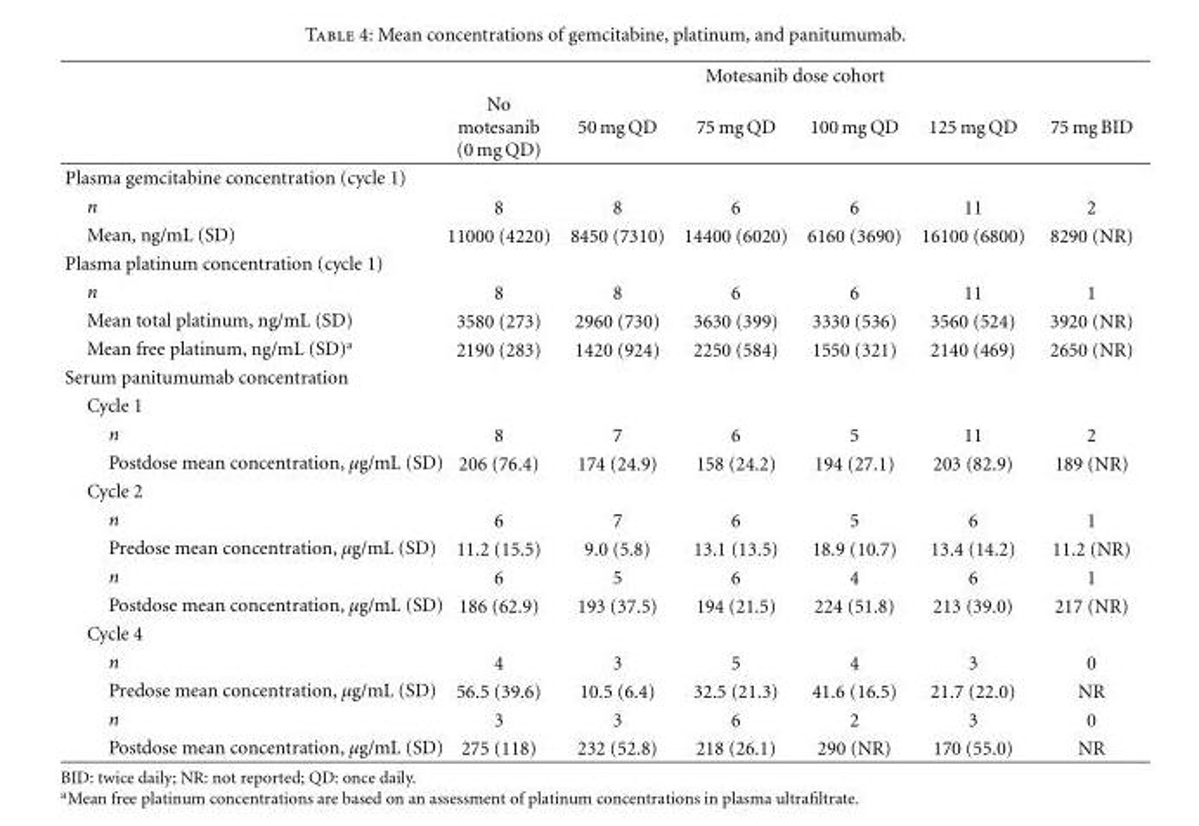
<table><thead><tr><td rowspan="2"></td><td rowspan="2">No motesanib (0 mg QD)</td><td colspan="4">Motesanib dose cohort</td><td rowspan="2">75 mg BID</td></tr><tr><td>50 mg QD</td><td>75 mg QD</td><td>100 mg QD</td><td>125 mg QD</td></tr></thead><tbody><tr><td colspan="7">Plasma gemcitabine concentration (cycle 1)</td></tr><tr><td>n</td><td>8</td><td>8</td><td>6</td><td>6</td><td>11</td><td>2</td></tr><tr><td>Mean, ng/mL (SD)</td><td>11000 (4220)</td><td>8450 (7310)</td><td>14400 (6020)</td><td>6160 (3690)</td><td>16100 (6800)</td><td>8290 (NR)</td></tr><tr><td colspan="7">Plasma platinum concentration (cycle 1)</td></tr><tr><td>n</td><td>8</td><td>8</td><td>6</td><td>6</td><td>11</td><td>1</td></tr><tr><td>Mean total platinum, ng/mL (SD)</td><td>3580 (273)</td><td>2960 (730)</td><td>3630 (399)</td><td>3330 (536)</td><td>3560 (524)</td><td>3920 (NR)</td></tr><tr><td>Mean free platinum, ng/mL (SD)<sup>a</sup></td><td>2190 (283)</td><td>1420 (924)</td><td>2250 (584)</td><td>1550 (321)</td><td>2140 (469)</td><td>2650 (NR)</td></tr><tr><td colspan="7">Serum panitumumab concentration</td></tr><tr><td colspan="7">Cycle 1</td></tr><tr><td>n</td><td>8</td><td>7</td><td>6</td><td>5</td><td>11</td><td>2</td></tr><tr><td>Postdose mean concentration, µg/mL (SD)</td><td>206 (76.4)</td><td>174 (24.9)</td><td>158 (24.2)</td><td>194 (27.1)</td><td>203 (82.9)</td><td>189 (NR)</td></tr><tr><td colspan="7">Cycle 2</td></tr><tr><td>n</td><td>6</td><td>7</td><td>6</td><td>5</td><td>6</td><td>1</td></tr><tr><td>Predose mean concentration, µg/mL (SD)</td><td>11.2 (15.5)</td><td>9.0 (5.8)</td><td>13.1 (13.5)</td><td>18.9 (10.7)</td><td>13.4 (14.2)</td><td>11.2 (NR)</td></tr><tr><td>n</td><td>6</td><td>5</td><td>6</td><td>4</td><td>6</td><td>1</td></tr><tr><td>Postdose mean concentration, µg/mL (SD)</td><td>186 (62.9)</td><td>193 (37.5)</td><td>194 (21.5)</td><td>224 (51.8)</td><td>213 (39.0)</td><td>217 (NR)</td></tr><tr><td colspan="7">Cycle 4</td></tr><tr><td>n</td><td>4</td><td>3</td><td>5</td><td>4</td><td>3</td><td>0</td></tr><tr><td>Predose mean concentration, µg/mL (SD)</td><td>56.5 (39.6)</td><td>10.5 (6.4)</td><td>32.5 (21.3)</td><td>41.6 (16.5)</td><td>21.7 (22.0)</td><td>NR</td></tr><tr><td>n</td><td>3</td><td>3</td><td>6</td><td>2</td><td>3</td><td>0</td></tr><tr><td>Postdose mean concentration, µg/mL (SD)</td><td>275 (118)</td><td>232 (52.8)</td><td>218 (26.1)</td><td>290 (NR)</td><td>170 (55.0)</td><td>NR</td></tr></tbody></table>